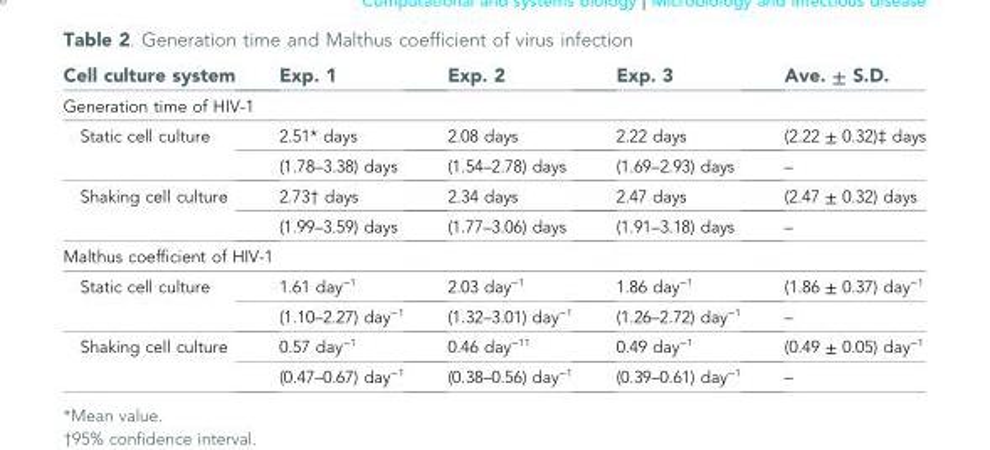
<table><thead><tr><td>Cell culture system</td><td>Exp. 1</td><td>Exp. 2</td><td>Exp. 3</td><td>Ave. ± S.D.</td></tr></thead><tbody><tr><td colspan="5">Generation time of HIV-1</td></tr><tr><td rowspan="2">Static cell culture</td><td>2.51* days</td><td>2.08 days</td><td>2.22 days</td><td>(2.22 ± 0.32)‡ days</td></tr><tr><td>(1.78–3.38) days</td><td>(1.54–2.78) days</td><td>(1.69–2.93) days</td><td>–</td></tr><tr><td rowspan="2">Shaking cell culture</td><td>2.73† days</td><td>2.34 days</td><td>2.47 days</td><td>(2.47 ± 0.32) days</td></tr><tr><td>(1.99–3.59) days</td><td>(1.77–3.06) days</td><td>(1.91–3.18) days</td><td>–</td></tr><tr><td colspan="5">Malthus coefficient of HIV-1</td></tr><tr><td rowspan="2">Static cell culture</td><td>1.61 day<sup>−1</sup></td><td>2.03 day<sup>−1</sup></td><td>1.86 day<sup>−1</sup></td><td>(1.86 ± 0.37) day<sup>−1</sup></td></tr><tr><td>(1.10–2.27) day<sup>−1</sup></td><td>(1.32–3.01) day<sup>−1</sup></td><td>(1.26–2.72) day<sup>−1</sup></td><td>–</td></tr><tr><td rowspan="2">Shaking cell culture</td><td>0.57 day<sup>−1</sup></td><td>0.46 day<sup>−11</sup></td><td>0.49 day<sup>−1</sup></td><td>(0.49 ± 0.05) day<sup>−1</sup></td></tr><tr><td>(0.47–0.67) day<sup>−1</sup></td><td>(0.38–0.56) day<sup>−1</sup></td><td>(0.39–0.61) day<sup>−1</sup></td><td>–</td></tr></tbody></table>